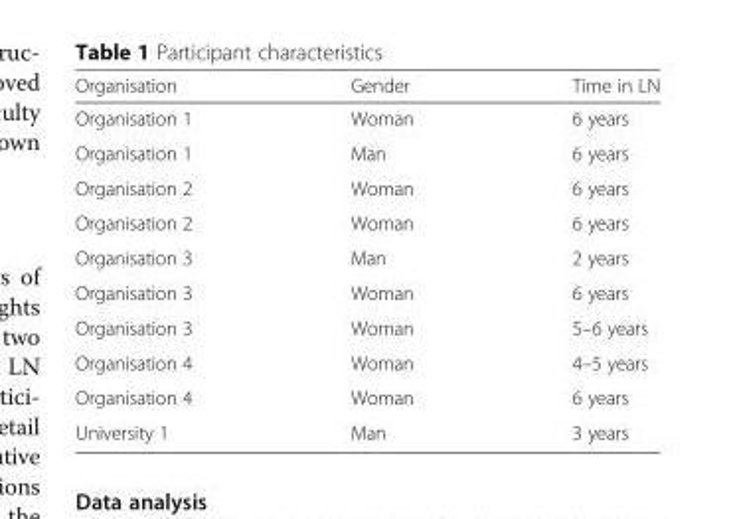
<table><thead><tr><td>Organisation</td><td>Gender</td><td>Time in LN</td></tr></thead><tbody><tr><td>Organisation 1</td><td>Woman</td><td>6 years</td></tr><tr><td>Organisation 1</td><td>Man</td><td>6 years</td></tr><tr><td>Organisation 2</td><td>Woman</td><td>6 years</td></tr><tr><td>Organisation 2</td><td>Woman</td><td>6 years</td></tr><tr><td>Organisation 3</td><td>Man</td><td>2 years</td></tr><tr><td>Organisation 3</td><td>Woman</td><td>6 years</td></tr><tr><td>Organisation 3</td><td>Woman</td><td>5–6 years</td></tr><tr><td>Organisation 4</td><td>Woman</td><td>4–5 years</td></tr><tr><td>Organisation 4</td><td>Woman</td><td>6 years</td></tr><tr><td>University 1</td><td>Man</td><td>3 years</td></tr></tbody></table>